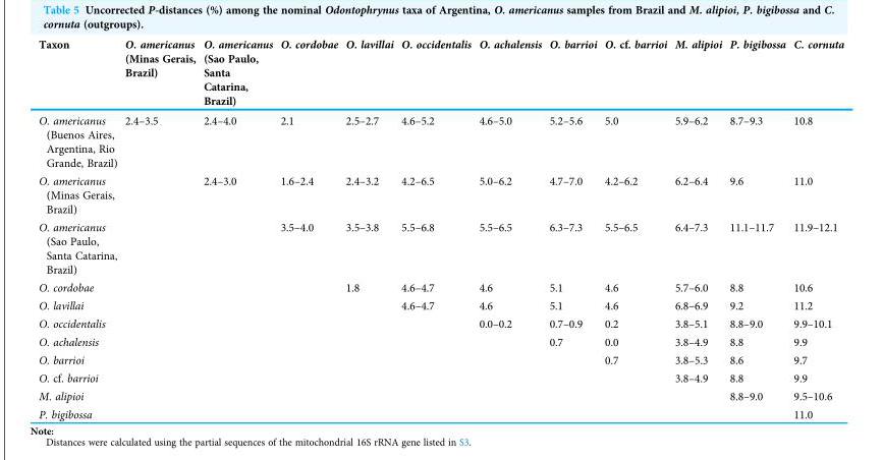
<table><thead><tr><td>Taxon</td><td>O. americanus (Minas Gerais, Brazil)</td><td>O. americanus (Sao Paulo, Santa Catarina, Brazil)</td><td>O. cordobae</td><td>O. lavillai</td><td>O. occidentalis</td><td>O. achalensis</td><td>O. barrioi</td><td>O. cf. barrioi</td><td>M. alipioi</td><td>P. bigibossa</td><td>C. cornuta</td></tr></thead><tbody><tr><td>O. americanus (Buenos Aires, Argentina, Rio Grande, Brazil)</td><td>2.4–3.5</td><td>2.4–4.0</td><td>2.1</td><td>2.5–2.7</td><td>4.6–5.2</td><td>4.6–5.0</td><td>5.2–5.6</td><td>5.0</td><td>5.9–6.2</td><td>8.7–9.3</td><td>10.8</td></tr><tr><td>O. americanus (Minas Gerais, Brazil)</td><td></td><td>2.4–3.0</td><td>1.6–2.4</td><td>2.4–3.2</td><td>4.2–6.5</td><td>5.0–6.2</td><td>4.7–7.0</td><td>4.2–6.2</td><td>6.2–6.4</td><td>9.6</td><td>11.0</td></tr><tr><td>O. americanus (Sao Paulo, Santa Catarina, Brazil)</td><td></td><td></td><td>3.5–4.0</td><td>3.5–3.8</td><td>5.5–6.8</td><td>5.5–6.5</td><td>6.3–7.3</td><td>5.5–6.5</td><td>6.4–7.3</td><td>11.1–11.7</td><td>11.9–12.1</td></tr><tr><td>O. cordobae</td><td></td><td></td><td></td><td>1.8</td><td>4.6–4.7</td><td>4.6</td><td>5.1</td><td>4.6</td><td>5.7–6.0</td><td>8.8</td><td>10.6</td></tr><tr><td>O. lavillai</td><td></td><td></td><td></td><td></td><td>4.6–4.7</td><td>4.6</td><td>5.1</td><td>4.6</td><td>6.8–6.9</td><td>9.2</td><td>11.2</td></tr><tr><td>O. occidentalis</td><td></td><td></td><td></td><td></td><td></td><td>0.0–0.2</td><td>0.7–0.9</td><td>0.2</td><td>3.8–5.1</td><td>8.8–9.0</td><td>9.9–10.1</td></tr><tr><td>O. achalensis</td><td></td><td></td><td></td><td></td><td></td><td></td><td>0.7</td><td>0.0</td><td>3.8–4.9</td><td>8.8</td><td>9.9</td></tr><tr><td>O. barrioi</td><td></td><td></td><td></td><td></td><td></td><td></td><td></td><td>0.7</td><td>3.8–5.3</td><td>8.6</td><td>9.7</td></tr><tr><td>O. cf. barrioi</td><td></td><td></td><td></td><td></td><td></td><td></td><td></td><td></td><td>3.8–4.9</td><td>8.8</td><td>9.9</td></tr><tr><td>M. alipioi</td><td></td><td></td><td></td><td></td><td></td><td></td><td></td><td></td><td></td><td>8.8–9.0</td><td>9.5–10.6</td></tr><tr><td>P. bigibossa</td><td></td><td></td><td></td><td></td><td></td><td></td><td></td><td></td><td></td><td></td><td>11.0</td></tr></tbody></table>